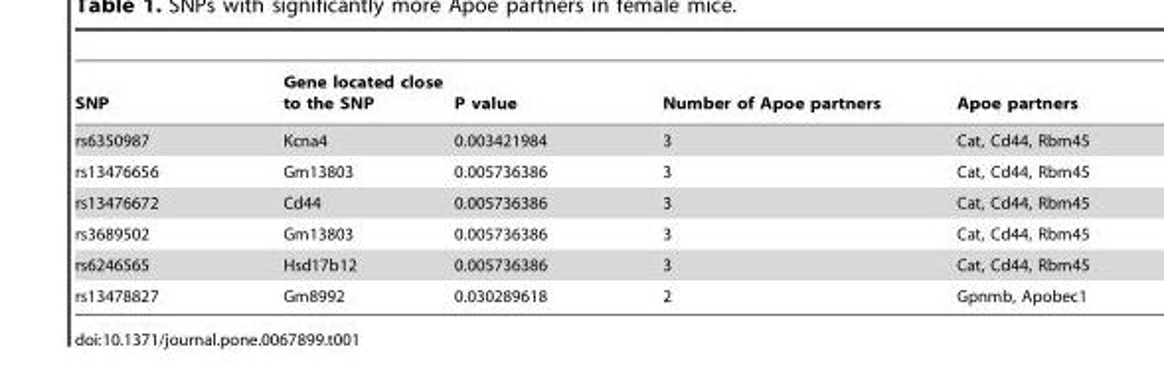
<table><thead><tr><td>SNP</td><td>Gene located close to the SNP</td><td>P value</td><td>Number of Apoe partners</td><td>Apoe partners</td></tr></thead><tbody><tr><td>rs6350987</td><td>Kcna4</td><td>0.003421984</td><td>3</td><td>Cat, Cd44, Rbm45</td></tr><tr><td>rs13476656</td><td>Gm13803</td><td>0.005736386</td><td>3</td><td>Cat, Cd44, Rbm45</td></tr><tr><td>rs13476672</td><td>Cd44</td><td>0.005736386</td><td>3</td><td>Cat, Cd44, Rbm45</td></tr><tr><td>rs3689502</td><td>Gm13803</td><td>0.005736386</td><td>3</td><td>Cat, Cd44, Rbm45</td></tr><tr><td>rs6246565</td><td>Hsd17b12</td><td>0.005736386</td><td>3</td><td>Cat, Cd44, Rbm45</td></tr><tr><td>rs13478827</td><td>Gm8992</td><td>0.030289618</td><td>2</td><td>Gpnmb, Apobec1</td></tr></tbody></table>